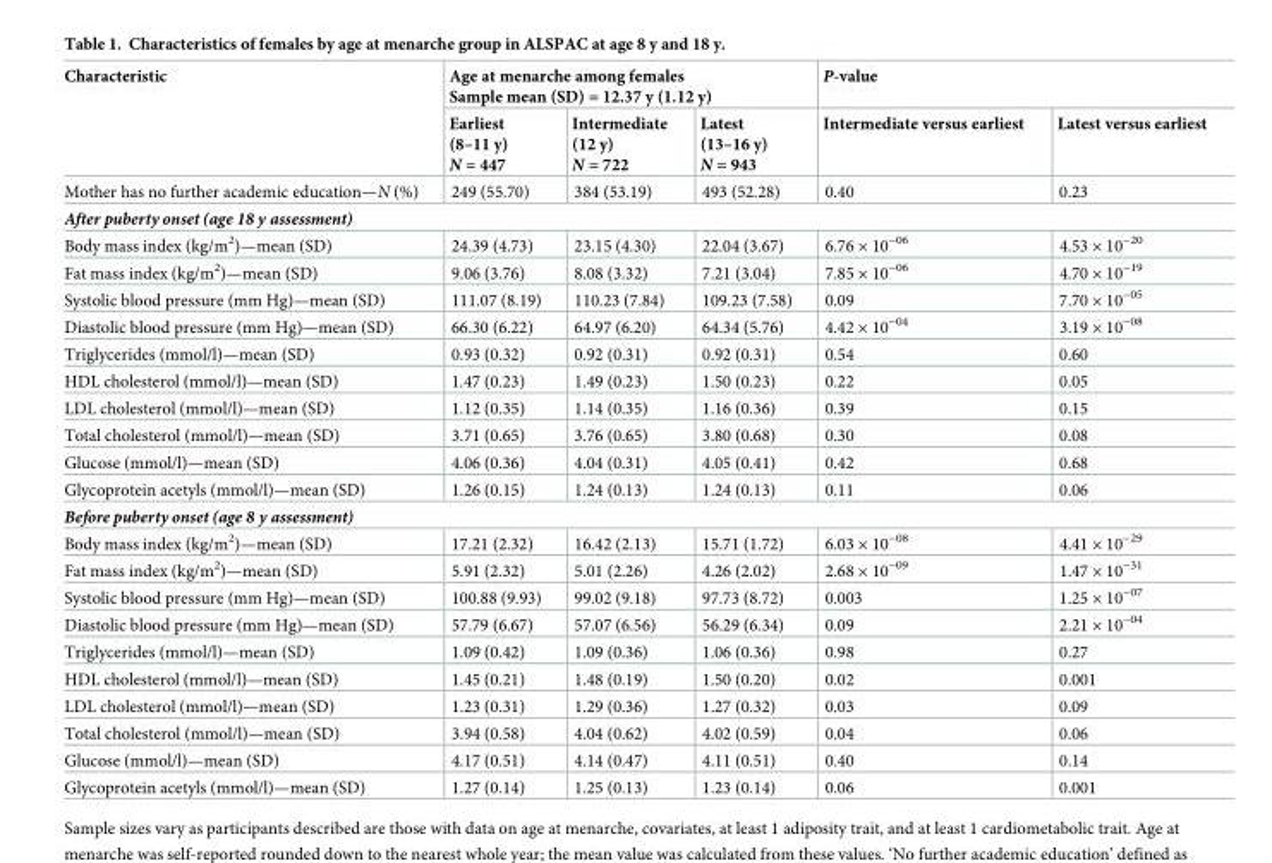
<table><thead><tr><td rowspan="2">Characteristic</td><td colspan="3">Age at menarche among females Sample mean (SD) = 12.37 y (1.12 y)</td><td colspan="2">P-value</td></tr><tr><td>Earliest (8–11 y) N = 447</td><td>Intermediate (12 y) N = 722</td><td>Latest (13–16 y) N = 943</td><td>Intermediate versus earliest</td><td>Latest versus earliest</td></tr></thead><tbody><tr><td>Mother has no further academic education—N (%)</td><td>249 (55.70)</td><td>384 (53.19)</td><td>493 (52.28)</td><td>0.40</td><td>0.23</td></tr><tr><td colspan="6">After puberty onset (age 18 y assessment)</td></tr><tr><td>Body mass index (kg/m<sup>2</sup>)—mean (SD)</td><td>24.39 (4.73)</td><td>23.15 (4.30)</td><td>22.04 (3.67)</td><td>6.76 × 10<sup>−06</sup></td><td>4.53 × 10<sup>−20</sup></td></tr><tr><td>Fat mass index (kg/m<sup>2</sup>)—mean (SD)</td><td>9.06 (3.76)</td><td>8.08 (3.32)</td><td>7.21 (3.04)</td><td>7.85 × 10<sup>−06</sup></td><td>4.70 × 10<sup>−19</sup></td></tr><tr><td>Systolic blood pressure (mm Hg)—mean (SD)</td><td>111.07 (8.19)</td><td>110.23 (7.84)</td><td>109.23 (7.58)</td><td>0.09</td><td>7.70 × 10<sup>−05</sup></td></tr><tr><td>Diastolic blood pressure (mm Hg)—mean (SD)</td><td>66.30 (6.22)</td><td>64.97 (6.20)</td><td>64.34 (5.76)</td><td>4.42 × 10<sup>−04</sup></td><td>3.19 × 10<sup>−08</sup></td></tr><tr><td>Triglycerides (mmol/l)—mean (SD)</td><td>0.93 (0.32)</td><td>0.92 (0.31)</td><td>0.92 (0.31)</td><td>0.54</td><td>0.60</td></tr><tr><td>HDL cholesterol (mmol/l)—mean (SD)</td><td>1.47 (0.23)</td><td>1.49 (0.23)</td><td>1.50 (0.23)</td><td>0.22</td><td>0.05</td></tr><tr><td>LDL cholesterol (mmol/l)—mean (SD)</td><td>1.12 (0.35)</td><td>1.14 (0.35)</td><td>1.16 (0.36)</td><td>0.39</td><td>0.15</td></tr><tr><td>Total cholesterol (mmol/l)—mean (SD)</td><td>3.71 (0.65)</td><td>3.76 (0.65)</td><td>3.80 (0.68)</td><td>0.30</td><td>0.08</td></tr><tr><td>Glucose (mmol/l)—mean (SD)</td><td>4.06 (0.36)</td><td>4.04 (0.31)</td><td>4.05 (0.41)</td><td>0.42</td><td>0.68</td></tr><tr><td>Glycoprotein acetyls (mmol/l)—mean (SD)</td><td>1.26 (0.15)</td><td>1.24 (0.13)</td><td>1.24 (0.13)</td><td>0.11</td><td>0.06</td></tr><tr><td colspan="6">Before puberty onset (age 8 y assessment)</td></tr><tr><td>Body mass index (kg/m<sup>2</sup>)—mean (SD)</td><td>17.21 (2.32)</td><td>16.42 (2.13)</td><td>15.71 (1.72)</td><td>6.03 × 10<sup>−08</sup></td><td>4.41 × 10<sup>−29</sup></td></tr><tr><td>Fat mass index (kg/m<sup>2</sup>)—mean (SD)</td><td>5.91 (2.32)</td><td>5.01 (2.26)</td><td>4.26 (2.02)</td><td>2.68 × 10<sup>−09</sup></td><td>1.47 × 10<sup>−31</sup></td></tr><tr><td>Systolic blood pressure (mm Hg)—mean (SD)</td><td>100.88 (9.93)</td><td>99.02 (9.18)</td><td>97.73 (8.72)</td><td>0.003</td><td>1.25 × 10<sup>−07</sup></td></tr><tr><td>Diastolic blood pressure (mm Hg)—mean (SD)</td><td>57.79 (6.67)</td><td>57.07 (6.56)</td><td>56.29 (6.34)</td><td>0.09</td><td>2.21 × 10<sup>−04</sup></td></tr><tr><td>Triglycerides (mmol/l)—mean (SD)</td><td>1.09 (0.42)</td><td>1.09 (0.36)</td><td>1.06 (0.36)</td><td>0.98</td><td>0.27</td></tr><tr><td>HDL cholesterol (mmol/l)—mean (SD)</td><td>1.45 (0.21)</td><td>1.48 (0.19)</td><td>1.50 (0.20)</td><td>0.02</td><td>0.001</td></tr><tr><td>LDL cholesterol (mmol/l)—mean (SD)</td><td>1.23 (0.31)</td><td>1.29 (0.36)</td><td>1.27 (0.32)</td><td>0.03</td><td>0.09</td></tr><tr><td>Total cholesterol (mmol/l)—mean (SD)</td><td>3.94 (0.58)</td><td>4.04 (0.62)</td><td>4.02 (0.59)</td><td>0.04</td><td>0.06</td></tr><tr><td>Glucose (mmol/l)—mean (SD)</td><td>4.17 (0.51)</td><td>4.14 (0.47)</td><td>4.11 (0.51)</td><td>0.40</td><td>0.14</td></tr><tr><td>Glycoprotein acetyls (mmol/l)—mean (SD)</td><td>1.27 (0.14)</td><td>1.25 (0.13)</td><td>1.23 (0.14)</td><td>0.06</td><td>0.001</td></tr></tbody></table>